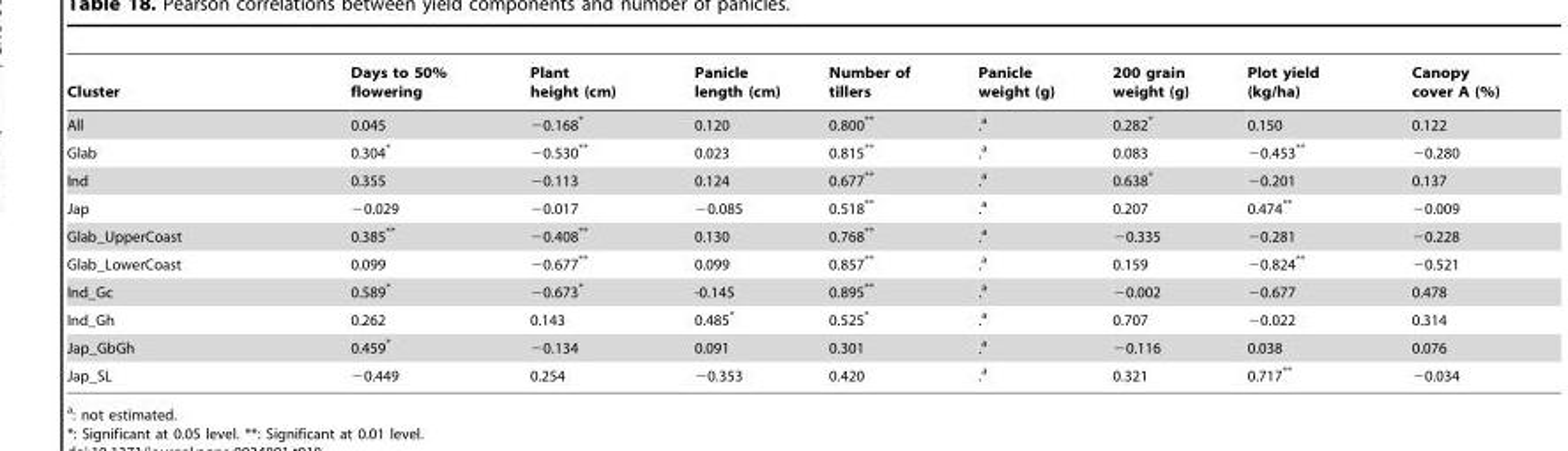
<table><thead><tr><td>Cluster</td><td>Days to 50% flowering</td><td>Plant height (cm)</td><td>Panicle length (cm)</td><td>Number of tillers</td><td>Panicle weight (g)</td><td>200 grain weight (g)</td><td>Plot yield (kg/ha)</td><td>Canopy cover A (%)</td></tr></thead><tbody><tr><td>All</td><td>0.045</td><td>−0.168*</td><td>0.120</td><td>0.800**</td><td>.<sup>a</sup></td><td>0.282*</td><td>0.150</td><td>0.122</td></tr><tr><td>Glab</td><td>0.304*</td><td>−0.530**</td><td>0.023</td><td>0.815**</td><td>.<sup>a</sup></td><td>0.083</td><td>−0.453**</td><td>−0.280</td></tr><tr><td>Ind</td><td>0.355</td><td>−0.113</td><td>0.124</td><td>0.677**</td><td>.<sup>a</sup></td><td>0.638*</td><td>−0.201</td><td>0.137</td></tr><tr><td>Jap</td><td>−0.029</td><td>−0.017</td><td>−0.085</td><td>0.518**</td><td>.<sup>a</sup></td><td>0.207</td><td>0.474**</td><td>−0.009</td></tr><tr><td>Glab_UpperCoast</td><td>0.385**</td><td>−0.408**</td><td>0.130</td><td>0.768**</td><td>.<sup>a</sup></td><td>−0.335</td><td>−0.281</td><td>−0.228</td></tr><tr><td>Glab_LowerCoast</td><td>0.099</td><td>−0.677**</td><td>0.099</td><td>0.857**</td><td>.<sup>a</sup></td><td>0.159</td><td>−0.824**</td><td>−0.521</td></tr><tr><td>Ind_Gc</td><td>0.589*</td><td>−0.673*</td><td>-0.145</td><td>0.895**</td><td>.<sup>a</sup></td><td>−0.002</td><td>−0.677</td><td>0.478</td></tr><tr><td>Ind_Gh</td><td>0.262</td><td>0.143</td><td>0.485*</td><td>0.525*</td><td>.<sup>a</sup></td><td>0.707</td><td>−0.022</td><td>0.314</td></tr><tr><td>Jap_GbGh</td><td>0.459*</td><td>−0.134</td><td>0.091</td><td>0.301</td><td>.<sup>a</sup></td><td>−0.116</td><td>0.038</td><td>0.076</td></tr><tr><td>Jap_SL</td><td>−0.449</td><td>0.254</td><td>−0.353</td><td>0.420</td><td>.<sup>a</sup></td><td>0.321</td><td>0.717**</td><td>−0.034</td></tr></tbody></table>